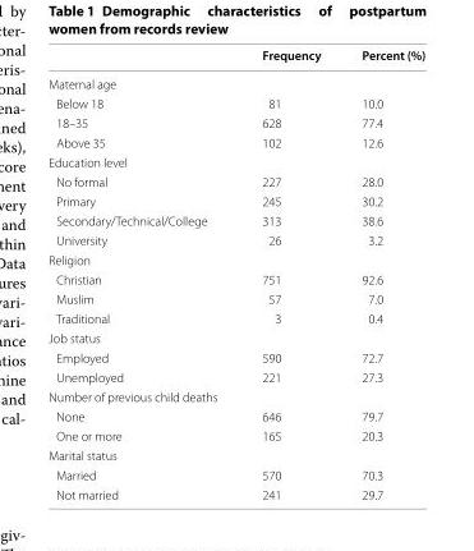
<table><thead><tr><td></td><td>Frequency</td><td>Percent (%)</td></tr></thead><tbody><tr><td colspan="3">Maternal age</td></tr><tr><td>Below 18</td><td>81</td><td>10.0</td></tr><tr><td>18–35</td><td>628</td><td>77.4</td></tr><tr><td>Above 35</td><td>102</td><td>12.6</td></tr><tr><td colspan="3">Education level</td></tr><tr><td>No formal</td><td>227</td><td>28.0</td></tr><tr><td>Primary</td><td>245</td><td>30.2</td></tr><tr><td>Secondary/Technical/College</td><td>313</td><td>38.6</td></tr><tr><td>University</td><td>26</td><td>3.2</td></tr><tr><td colspan="3">Religion</td></tr><tr><td>Christian</td><td>751</td><td>92.6</td></tr><tr><td>Muslim</td><td>57</td><td>7.0</td></tr><tr><td>Traditional</td><td>3</td><td>0.4</td></tr><tr><td colspan="3">Job status</td></tr><tr><td>Employed</td><td>590</td><td>72.7</td></tr><tr><td>Unemployed</td><td>221</td><td>27.3</td></tr><tr><td colspan="3">Number of previous child deaths</td></tr><tr><td>None</td><td>646</td><td>79.7</td></tr><tr><td>One or more</td><td>165</td><td>20.3</td></tr><tr><td colspan="3">Marital status</td></tr><tr><td>Married</td><td>570</td><td>70.3</td></tr><tr><td>Not married</td><td>241</td><td>29.7</td></tr></tbody></table>